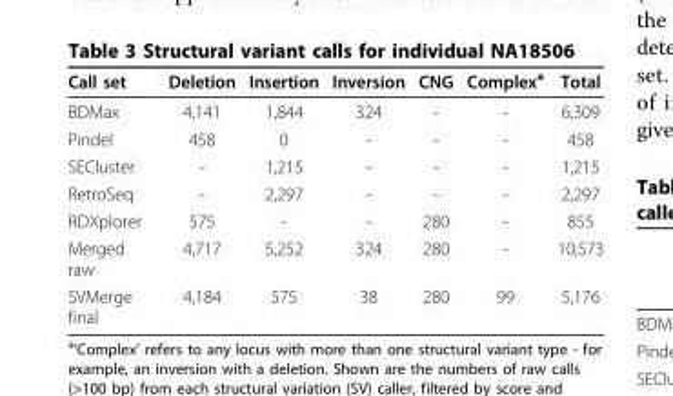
<table><thead><tr><td>Call set</td><td>Deletion</td><td>Insertion</td><td>Inversion</td><td>CNG</td><td>Complex<sup>a</sup></td><td>Total</td></tr></thead><tbody><tr><td>BDMax</td><td>4,141</td><td>1,844</td><td>324</td><td>-</td><td>-</td><td>6,309</td></tr><tr><td>Pindel</td><td>458</td><td>0</td><td>-</td><td>-</td><td>-</td><td>458</td></tr><tr><td>SECluster</td><td>-</td><td>1,215</td><td>-</td><td>-</td><td>-</td><td>1,215</td></tr><tr><td>RetroSeq</td><td>-</td><td>2,297</td><td>-</td><td>-</td><td>-</td><td>2,297</td></tr><tr><td>RDXplorer</td><td>575</td><td>-</td><td>-</td><td>280</td><td>-</td><td>855</td></tr><tr><td>Merged raw</td><td>4,717</td><td>5,252</td><td>324</td><td>280</td><td>-</td><td>10,573</td></tr><tr><td>SVMerge final</td><td>4,184</td><td>575</td><td>38</td><td>280</td><td>99</td><td>5,176</td></tr></tbody></table>